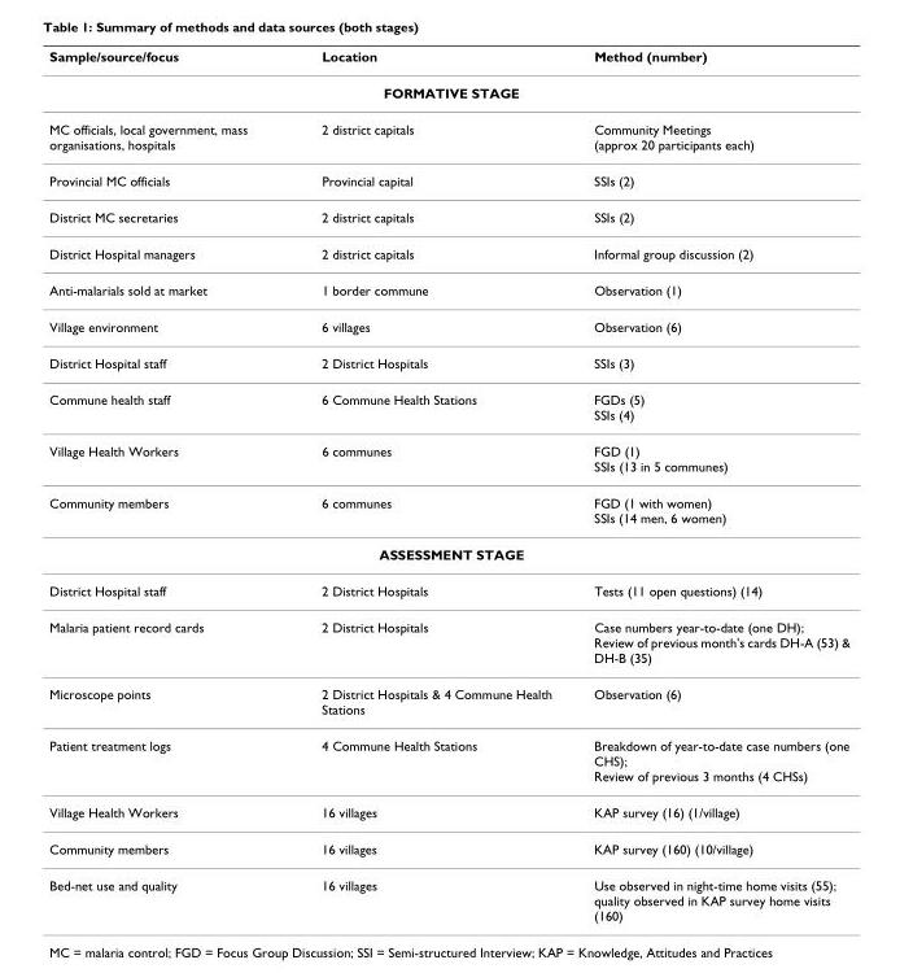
<table><thead><tr><td>Sample/source/focus</td><td>Location</td><td>Method (number)</td></tr></thead><tbody><tr><td colspan="3">FORMATIVE STAGE</td></tr><tr><td>MC officials, local government, mass organisations, hospitals</td><td>2 district capitals</td><td>Community Meetings (approx 20 participants each)</td></tr><tr><td>Provincial MC officials</td><td>Provincial capital</td><td>SSIs (2)</td></tr><tr><td>District MC secretaries</td><td>2 district capitals</td><td>SSIs (2)</td></tr><tr><td>District Hospital managers</td><td>2 district capitals</td><td>Informal group discussion (2)</td></tr><tr><td>Anti-malarials sold at market</td><td>1 border commune</td><td>Observation (1)</td></tr><tr><td>Village environment</td><td>6 villages</td><td>Observation (6)</td></tr><tr><td>District Hospital staff</td><td>2 District Hospitals</td><td>SSIs (3)</td></tr><tr><td>Commune health staff</td><td>6 Commune Health Stations</td><td>FGDs (5) SSIs (4)</td></tr><tr><td>Village Health Workers</td><td>6 communes</td><td>FGD (1) SSIs (13 in 5 communes)</td></tr><tr><td>Community members</td><td>6 communes</td><td>FGD (1 with women) SSIs (14 men, 6 women)</td></tr><tr><td colspan="3">ASSESSMENT STAGE</td></tr><tr><td>District Hospital staff</td><td>2 District Hospitals</td><td>Tests (11 open questions) (14)</td></tr><tr><td>Malaria patient record cards</td><td>2 District Hospitals</td><td>Case numbers year-to-date (one DH); Review of previous month&#x27;s cards DH-A (53) &amp; DH-B (35)</td></tr><tr><td>Microscope points</td><td>2 District Hospitals &amp; 4 Commune Health Stations</td><td>Observation (6)</td></tr><tr><td>Patient treatment logs</td><td>4 Commune Health Stations</td><td>Breakdown of year-to-date case numbers (one CHS); Review of previous 3 months (4 CHSs)</td></tr><tr><td>Village Health Workers</td><td>16 villages</td><td>KAP survey (16) (1/village)</td></tr><tr><td>Community members</td><td>16 villages</td><td>KAP survey (160) (10/village)</td></tr><tr><td>Bed-net use and quality</td><td>16 villages</td><td>Use observed in night-time home visits (55); quality observed in KAP survey home visits (160)</td></tr></tbody></table>